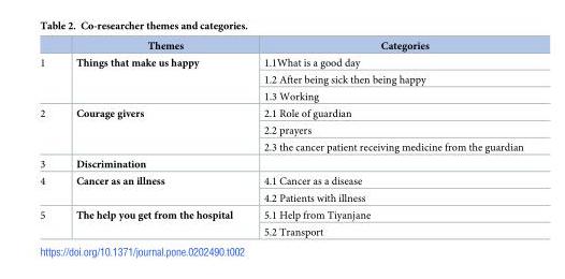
<table><thead><tr><td></td><td>Themes</td><td>Categories</td></tr></thead><tbody><tr><td rowspan="3">1</td><td rowspan="3">Things that make us happy</td><td>1.1What is a good day</td></tr><tr><td>1.2 After being sick then being happy</td></tr><tr><td>1.3 Working</td></tr><tr><td rowspan="3">2</td><td rowspan="3">Courage givers</td><td>2.1 Role of guardian</td></tr><tr><td>2.2 prayers</td></tr><tr><td>2.3 the cancer patient receiving medicine from the guardian</td></tr><tr><td>3</td><td>Discrimination</td><td></td></tr><tr><td rowspan="2">4</td><td rowspan="2">Cancer as an illness</td><td>4.1 Cancer as a disease</td></tr><tr><td>4.2 Patients with illness</td></tr><tr><td rowspan="2">5</td><td rowspan="2">The help you get from the hospital</td><td>5.1 Help from Tiyanjane</td></tr><tr><td>5.2 Transport</td></tr></tbody></table>